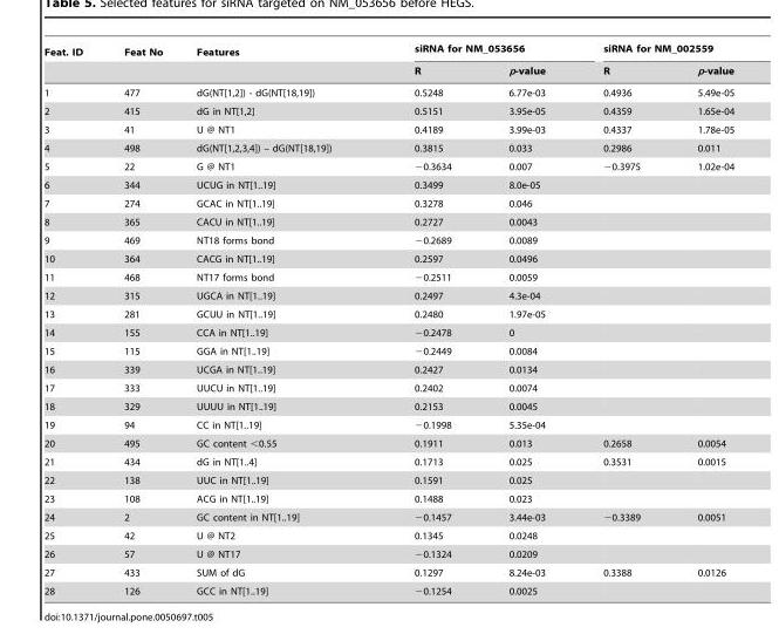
<table><thead><tr><td rowspan="2">Feat. ID</td><td rowspan="2">Feat No</td><td rowspan="2">Features</td><td colspan="2">siRNA for NM_053656</td><td colspan="2">siRNA for NM_002559</td></tr><tr><td>R</td><td>p-value</td><td>R</td><td>p-value</td></tr></thead><tbody><tr><td>1</td><td>477</td><td>dG(NT[1,2]) - dG(NT[18,19])</td><td>0.5248</td><td>6.77e-03</td><td>0.4936</td><td>5.49e-05</td></tr><tr><td>2</td><td>415</td><td>dG in NT[1,2]</td><td>0.5151</td><td>3.95e-05</td><td>0.4359</td><td>1.65e-04</td></tr><tr><td>3</td><td>41</td><td>U @ NT1</td><td>0.4189</td><td>3.99e-03</td><td>0.4337</td><td>1.78e-05</td></tr><tr><td>4</td><td>498</td><td>dG(NT[1,2,3,4]) – dG(NT[18,19])</td><td>0.3815</td><td>0.033</td><td>0.2986</td><td>0.011</td></tr><tr><td>5</td><td>22</td><td>G @ NT1</td><td>−0.3634</td><td>0.007</td><td>−0.3975</td><td>1.02e-04</td></tr><tr><td>6</td><td>344</td><td>UCUG in NT[1..19]</td><td>0.3499</td><td>8.0e-05</td><td></td><td></td></tr><tr><td>7</td><td>274</td><td>GCAC in NT[1..19]</td><td>0.3278</td><td>0.046</td><td></td><td></td></tr><tr><td>8</td><td>365</td><td>CACU in NT[1..19]</td><td>0.2727</td><td>0.0043</td><td></td><td></td></tr><tr><td>9</td><td>469</td><td>NT18 forms bond</td><td>−0.2689</td><td>0.0089</td><td></td><td></td></tr><tr><td>10</td><td>364</td><td>CACG in NT[1..19]</td><td>0.2597</td><td>0.0496</td><td></td><td></td></tr><tr><td>11</td><td>468</td><td>NT17 forms bond</td><td>−0.2511</td><td>0.0059</td><td></td><td></td></tr><tr><td>12</td><td>315</td><td>UGCA in NT[1..19]</td><td>0.2497</td><td>4.3e-04</td><td></td><td></td></tr><tr><td>13</td><td>281</td><td>GCUU in NT[1..19]</td><td>0.2480</td><td>1.97e-05</td><td></td><td></td></tr><tr><td>14</td><td>155</td><td>CCA in NT[1..19]</td><td>−0.2478</td><td>0</td><td></td><td></td></tr><tr><td>15</td><td>115</td><td>GGA in NT[1..19]</td><td>−0.2449</td><td>0.0084</td><td></td><td></td></tr><tr><td>16</td><td>339</td><td>UCGA in NT[1..19]</td><td>0.2427</td><td>0.0134</td><td></td><td></td></tr><tr><td>17</td><td>333</td><td>UUCU in NT[1..19]</td><td>0.2402</td><td>0.0074</td><td></td><td></td></tr><tr><td>18</td><td>329</td><td>UUUU in NT[1..19]</td><td>0.2153</td><td>0.0045</td><td></td><td></td></tr><tr><td>19</td><td>94</td><td>CC in NT[1..19]</td><td>−0.1998</td><td>5.35e-04</td><td></td><td></td></tr><tr><td>20</td><td>495</td><td>GC content &lt;0.55</td><td>0.1911</td><td>0.013</td><td>0.2658</td><td>0.0054</td></tr><tr><td>21</td><td>434</td><td>dG in NT[1..4]</td><td>0.1713</td><td>0.025</td><td>0.3531</td><td>0.0015</td></tr><tr><td>22</td><td>138</td><td>UUC in NT[1..19]</td><td>0.1591</td><td>0.025</td><td></td><td></td></tr><tr><td>23</td><td>108</td><td>ACG in NT[1..19]</td><td>0.1488</td><td>0.023</td><td></td><td></td></tr><tr><td>24</td><td>2</td><td>GC content in NT[1..19]</td><td>−0.1457</td><td>3.44e-03</td><td>−0.3389</td><td>0.0051</td></tr><tr><td>25</td><td>42</td><td>U @ NT2</td><td>0.1345</td><td>0.0248</td><td></td><td></td></tr><tr><td>26</td><td>57</td><td>U @ NT17</td><td>−0.1324</td><td>0.0209</td><td></td><td></td></tr><tr><td>27</td><td>433</td><td>SUM of dG</td><td>0.1297</td><td>8.24e-03</td><td>0.3388</td><td>0.0126</td></tr><tr><td>28</td><td>126</td><td>GCC in NT[1..19]</td><td>−0.1254</td><td>0.0025</td><td></td><td></td></tr></tbody></table>